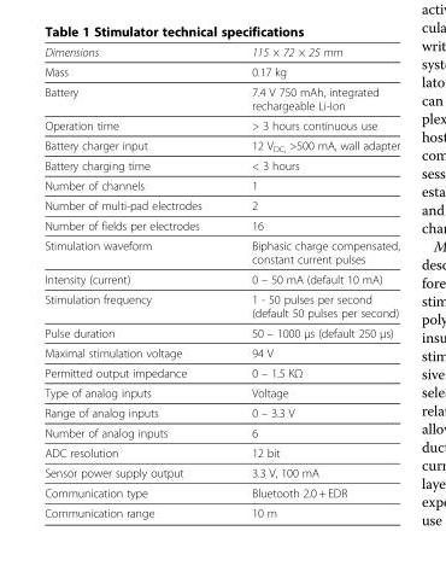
<table><thead><tr><td>Dimensions</td><td>115 × 72 × 25 mm</td></tr></thead><tbody><tr><td>Mass</td><td>0.17 kg</td></tr><tr><td>Battery</td><td>7.4 V 750 mAh, integrated rechargeable Li-Ion</td></tr><tr><td>Operation time</td><td>&gt; 3 hours continuous use</td></tr><tr><td>Battery charger input</td><td>12 V<sub>DC,</sub> &gt;500 mA, wall adapter</td></tr><tr><td>Battery charging time</td><td>&lt; 3 hours</td></tr><tr><td>Number of channels</td><td>1</td></tr><tr><td>Number of multi-pad electrodes</td><td>2</td></tr><tr><td>Number of fields per electrodes</td><td>16</td></tr><tr><td>Stimulation waveform</td><td>Biphasic charge compensated, constant current pulses</td></tr><tr><td>Intensity (current)</td><td>0 – 50 mA (default 10 mA)</td></tr><tr><td>Stimulation frequency</td><td>1 - 50 pulses per second (default 50 pulses per second)</td></tr><tr><td>Pulse duration</td><td>50 – 1000 μs (default 250 μs)</td></tr><tr><td>Maximal stimulation voltage</td><td>94 V</td></tr><tr><td>Permitted output impedance</td><td>0 – 1.5 KΩ</td></tr><tr><td>Type of analog inputs</td><td>Voltage</td></tr><tr><td>Range of analog inputs</td><td>0 – 3.3 V</td></tr><tr><td>Number of analog inputs</td><td>6</td></tr><tr><td>ADC resolution</td><td>12 bit</td></tr><tr><td>Sensor power supply output</td><td>3.3 V, 100 mA</td></tr><tr><td>Communication type</td><td>Bluetooth 2.0 + EDR</td></tr><tr><td>Communication range</td><td>10 m</td></tr></tbody></table>